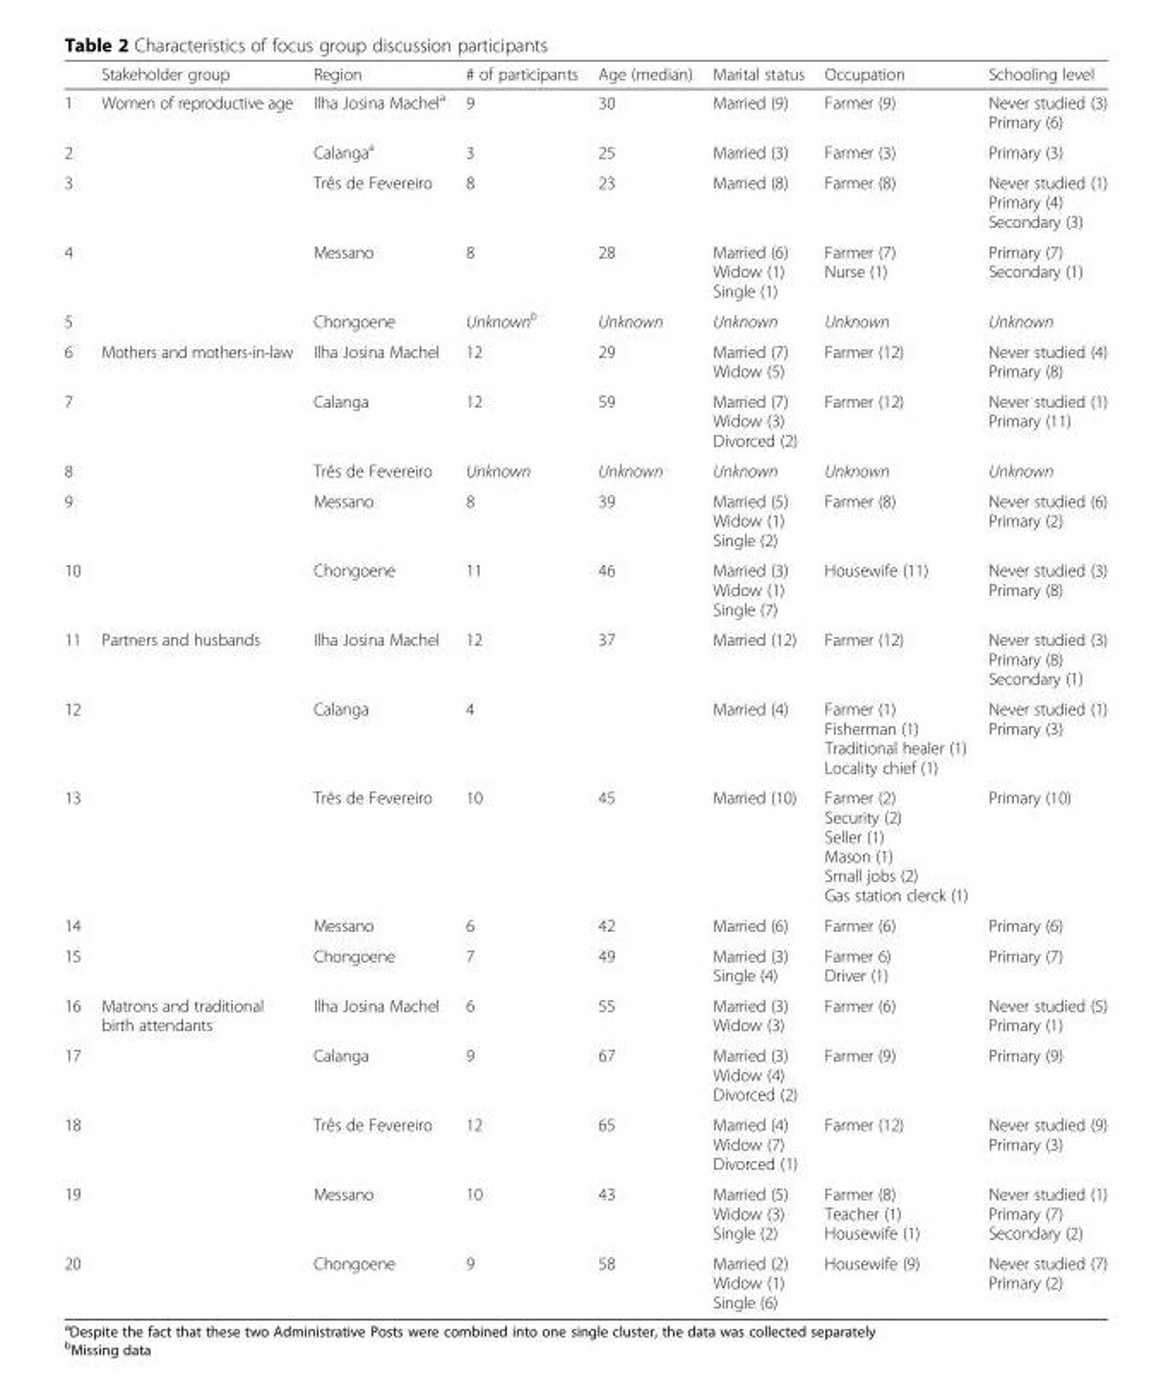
<table><thead><tr><td></td><td>Stakeholder group</td><td>Region</td><td># of participants</td><td>Age (median)</td><td>Marital status</td><td>Occupation</td><td>Schooling level</td></tr></thead><tbody><tr><td>1</td><td rowspan="5">Women of reproductive age</td><td>Ilha Josina Machel<sup>a</sup></td><td>9</td><td>30</td><td>Married (9)</td><td>Farmer (9)</td><td>Never studied (3) Primary (6)</td></tr><tr><td>2</td><td>Calanga<sup>a</sup></td><td>3</td><td>25</td><td>Married (3)</td><td>Farmer (3)</td><td>Primary (3)</td></tr><tr><td>3</td><td>Três de Fevereiro</td><td>8</td><td>23</td><td>Married (8)</td><td>Farmer (8)</td><td>Never studied (1) Primary (4) Secondary (3)</td></tr><tr><td>4</td><td>Messano</td><td>8</td><td>28</td><td>Married (6) Widow (1) Single (1)</td><td>Farmer (7) Nurse (1)</td><td>Primary (7) Secondary (1)</td></tr><tr><td>5</td><td>Chongoene</td><td>Unknown<sup>b</sup></td><td>Unknown</td><td>Unknown</td><td>Unknown</td><td>Unknown</td></tr><tr><td>6</td><td rowspan="5">Mothers and mothers-in-law</td><td>Ilha Josina Machel</td><td>12</td><td>29</td><td>Married (7) Widow (5)</td><td>Farmer (12)</td><td>Never studied (4) Primary (8)</td></tr><tr><td>7</td><td>Calanga</td><td>12</td><td>59</td><td>Married (7) Widow (3) Divorced (2)</td><td>Farmer (12)</td><td>Never studied (1) Primary (11)</td></tr><tr><td>8</td><td>Três de Fevereiro</td><td>Unknown</td><td>Unknown</td><td>Unknown</td><td>Unknown</td><td>Unknown</td></tr><tr><td>9</td><td>Messano</td><td>8</td><td>39</td><td>Married (5) Widow (1) Single (2)</td><td>Farmer (8)</td><td>Never studied (6) Primary (2)</td></tr><tr><td>10</td><td>Chongoene</td><td>11</td><td>46</td><td>Married (3) Widow (1) Single (7)</td><td>Housewife (11)</td><td>Never studied (3) Primary (8)</td></tr><tr><td>11</td><td rowspan="5">Partners and husbands</td><td>Ilha Josina Machel</td><td>12</td><td>37</td><td>Married (12)</td><td>Farmer (12)</td><td>Never studied (3) Primary (8) Secondary (1)</td></tr><tr><td>12</td><td>Calanga</td><td>4</td><td></td><td>Married (4)</td><td>Farmer (1) Fisherman (1) Traditional healer (1) Locality chief (1)</td><td>Never studied (1) Primary (3)</td></tr><tr><td>13</td><td>Três de Fevereiro</td><td>10</td><td>45</td><td>Married (10)</td><td>Farmer (2) Security (2) Seller (1) Mason (1) Small jobs (2) Gas station clerck (1)</td><td>Primary (10)</td></tr><tr><td>14</td><td>Messano</td><td>6</td><td>42</td><td>Married (6)</td><td>Farmer (6)</td><td>Primary (6)</td></tr><tr><td>15</td><td>Chongoene</td><td>7</td><td>49</td><td>Married (3) Single (4)</td><td>Farmer 6) Driver (1)</td><td>Primary (7)</td></tr><tr><td>16</td><td rowspan="5">Matrons and traditional birth attendants</td><td>Ilha Josina Machel</td><td>6</td><td>55</td><td>Married (3) Widow (3)</td><td>Farmer (6)</td><td>Never studied (5) Primary (1)</td></tr><tr><td>17</td><td>Calanga</td><td>9</td><td>67</td><td>Married (3) Widow (4) Divorced (2)</td><td>Farmer (9)</td><td>Primary (9)</td></tr><tr><td>18</td><td>Três de Fevereiro</td><td>12</td><td>65</td><td>Married (4) Widow (7) Divorced (1)</td><td>Farmer (12)</td><td>Never studied (9) Primary (3)</td></tr><tr><td>19</td><td>Messano</td><td>10</td><td>43</td><td>Married (5) Widow (3) Single (2)</td><td>Farmer (8) Teacher (1) Housewife (1)</td><td>Never studied (1) Primary (7) Secondary (2)</td></tr><tr><td>20</td><td>Chongoene</td><td>9</td><td>58</td><td>Married (2) Widow (1) Single (6)</td><td>Housewife (9)</td><td>Never studied (7) Primary (2)</td></tr></tbody></table>